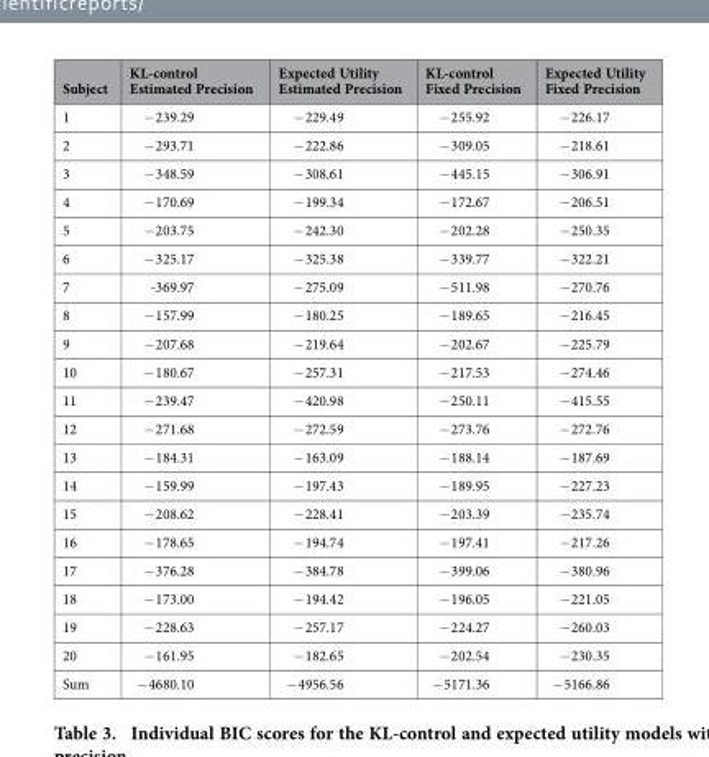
<table><thead><tr><td>Subject</td><td>KL-control Estimated Precision</td><td>Expected Utility Estimated Precision</td><td>KL-control Fixed Precision</td><td>Expected Utility Fixed Precision</td></tr></thead><tbody><tr><td>1</td><td>− 239.29</td><td>− 229.49</td><td>− 255.92</td><td>− 226.17</td></tr><tr><td>2</td><td>− 293.71</td><td>− 222.86</td><td>− 309.05</td><td>− 218.61</td></tr><tr><td>3</td><td>− 348.59</td><td>− 308.61</td><td>− 445.15</td><td>− 306.91</td></tr><tr><td>4</td><td>− 170.69</td><td>− 199.34</td><td>− 172.67</td><td>− 206.51</td></tr><tr><td>5</td><td>− 203.75</td><td>− 242.30</td><td>− 202.28</td><td>− 250.35</td></tr><tr><td>6</td><td>− 325.17</td><td>− 325.38</td><td>− 339.77</td><td>− 322.21</td></tr><tr><td>7</td><td>-369.97</td><td>− 275.09</td><td>− 511.98</td><td>− 270.76</td></tr><tr><td>8</td><td>− 157.99</td><td>− 180.25</td><td>− 189.65</td><td>− 216.45</td></tr><tr><td>9</td><td>− 207.68</td><td>− 219.64</td><td>− 202.67</td><td>− 225.79</td></tr><tr><td>10</td><td>− 180.67</td><td>− 257.31</td><td>− 217.53</td><td>− 274.46</td></tr><tr><td>11</td><td>− 239.47</td><td>− 420.98</td><td>− 250.11</td><td>− 415.55</td></tr><tr><td>12</td><td>− 271.68</td><td>− 272.59</td><td>− 273.76</td><td>− 272.76</td></tr><tr><td>13</td><td>− 184.31</td><td>− 163.09</td><td>− 188.14</td><td>− 187.69</td></tr><tr><td>14</td><td>− 159.99</td><td>− 197.43</td><td>− 189.95</td><td>− 227.23</td></tr><tr><td>15</td><td>− 208.62</td><td>− 228.41</td><td>− 203.39</td><td>− 235.74</td></tr><tr><td>16</td><td>− 178.65</td><td>− 194.74</td><td>− 197.41</td><td>− 217.26</td></tr><tr><td>17</td><td>− 376.28</td><td>− 384.78</td><td>− 399.06</td><td>− 380.96</td></tr><tr><td>18</td><td>− 173.00</td><td>− 194.42</td><td>− 196.05</td><td>− 221.05</td></tr><tr><td>19</td><td>− 228.63</td><td>− 257.17</td><td>− 224.27</td><td>− 260.03</td></tr><tr><td>20</td><td>− 161.95</td><td>− 182.65</td><td>− 202.54</td><td>− 230.35</td></tr><tr><td>Sum</td><td>− 4680.10</td><td>− 4956.56</td><td>− 5171.36</td><td>− 5166.86</td></tr></tbody></table>